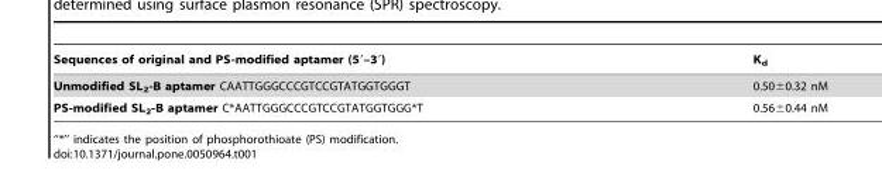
<table><thead><tr><td>Sequences of original and PS-modified aptamer (5′–3′)</td><td>K<sub>d</sub></td></tr></thead><tbody><tr><td>Unmodified SL<sub>2</sub>-B aptamer CAATTGGGCCCGTCCGTATGGTGGGT</td><td>0.50±0.32 nM</td></tr><tr><td>PS-modified SL<sub>2</sub>-B aptamer C*AATTGGGCCCGTCCGTATGGTGGG*T</td><td>0.56±0.44 nM</td></tr></tbody></table>